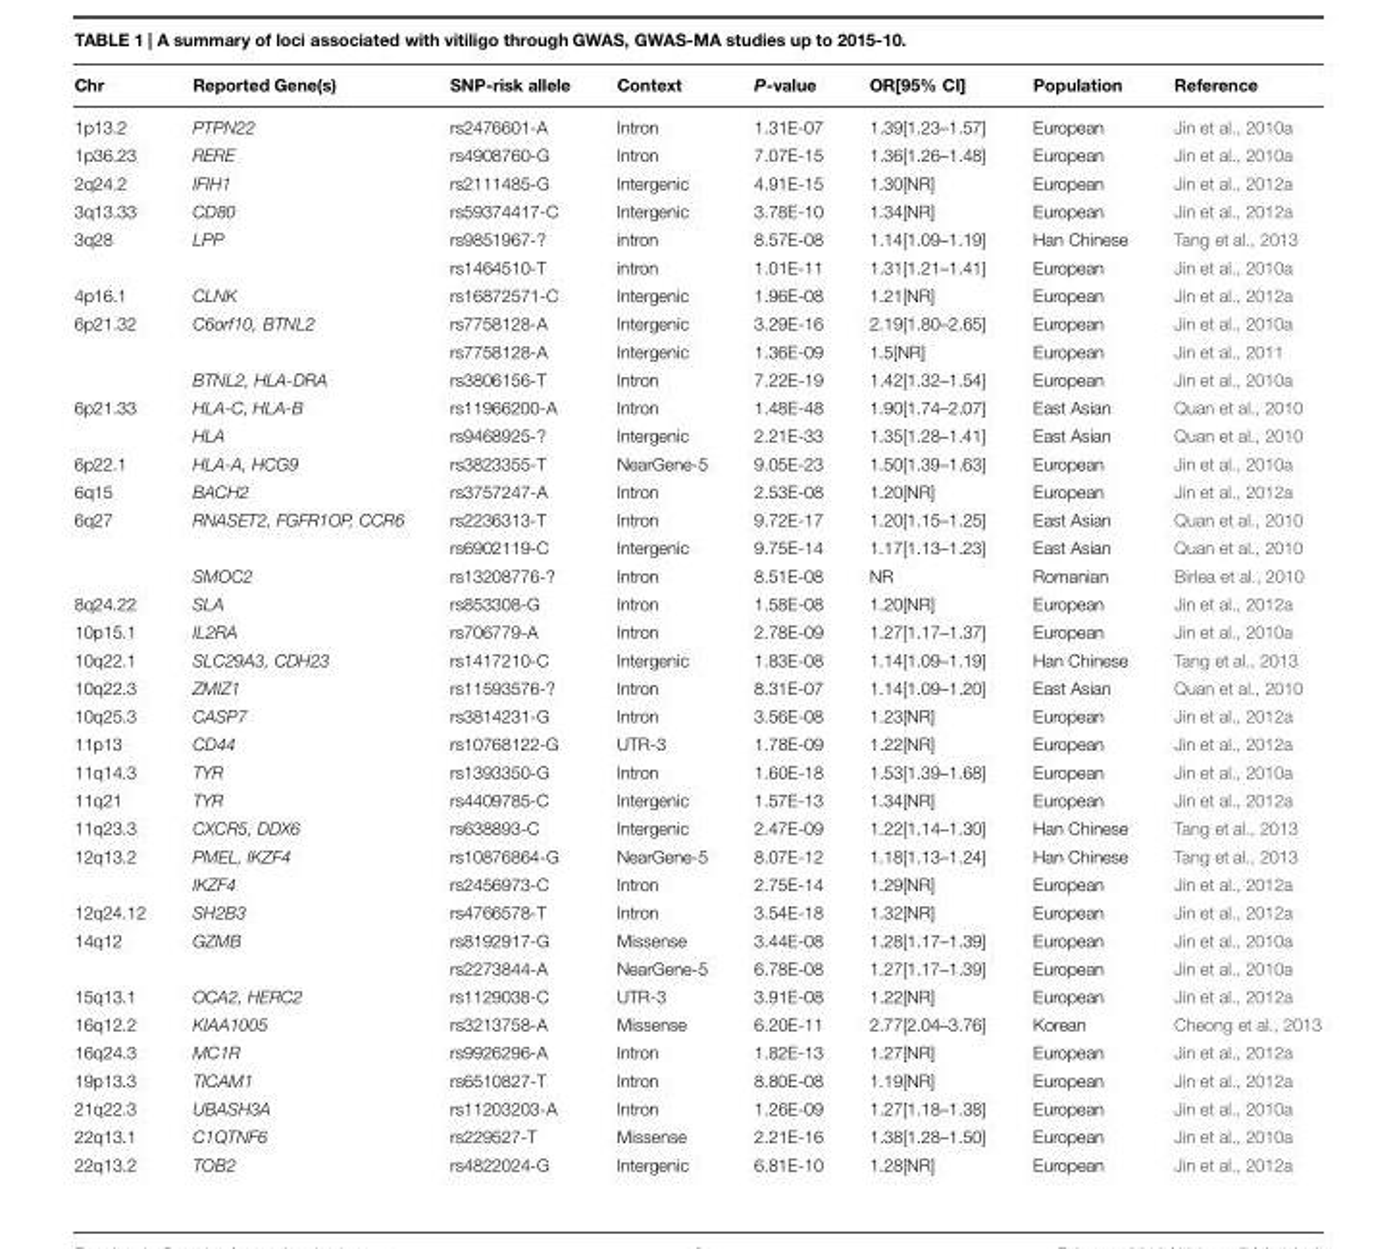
<table><thead><tr><td>Chr</td><td>Reported Gene(s)</td><td>SNP-risk allele</td><td>Context</td><td>P-value</td><td>OR[95% CI]</td><td>Population</td><td>Reference</td></tr></thead><tbody><tr><td>1p13.2</td><td>PTPN22</td><td>rs2476601-A</td><td>Intron</td><td>1.31E-07</td><td>1.39[1.23–1.57]</td><td>European</td><td>Jin et al., 2010a</td></tr><tr><td>1p36.23</td><td>RERE</td><td>rs4908760-G</td><td>Intron</td><td>7.07E-15</td><td>1.36[1.26–1.48]</td><td>European</td><td>Jin et al., 2010a</td></tr><tr><td>2q24.2</td><td>IFIH1</td><td>rs2111485-G</td><td>Intergenic</td><td>4.91E-15</td><td>1.30[NR]</td><td>European</td><td>Jin et al., 2012a</td></tr><tr><td>3q13.33</td><td>CD80</td><td>rs59374417-C</td><td>Intergenic</td><td>3.78E-10</td><td>1.34[NR]</td><td>European</td><td>Jin et al., 2012a</td></tr><tr><td rowspan="2">3q28</td><td>LPP</td><td>rs9851967-?</td><td>intron</td><td>8.57E-08</td><td>1.14[1.09–1.19]</td><td>Han Chinese</td><td>Tang et al., 2013</td></tr><tr><td></td><td>rs1464510-T</td><td>intron</td><td>1.01E-11</td><td>1.31[1.21–1.41]</td><td>European</td><td>Jin et al., 2010a</td></tr><tr><td>4p16.1</td><td>CLNK</td><td>rs16872571-C</td><td>Intergenic</td><td>1.96E-08</td><td>1.21[NR]</td><td>European</td><td>Jin et al., 2012a</td></tr><tr><td rowspan="3">6p21.32</td><td>C6orf10, BTNL2</td><td>rs7758128-A</td><td>Intergenic</td><td>3.29E-16</td><td>2.19[1.80–2.65]</td><td>European</td><td>Jin et al., 2010a</td></tr><tr><td></td><td>rs7758128-A</td><td>Intergenic</td><td>1.36E-09</td><td>1.5[NR]</td><td>European</td><td>Jin et al., 2011</td></tr><tr><td>BTNL2, HLA-DRA</td><td>rs3806156-T</td><td>Intron</td><td>7.22E-19</td><td>1.42[1.32–1.54]</td><td>European</td><td>Jin et al., 2010a</td></tr><tr><td rowspan="2">6p21.33</td><td>HLA-C, HLA-B</td><td>rs11966200-A</td><td>Intron</td><td>1.48E-48</td><td>1.90[1.74–2.07]</td><td>East Asian</td><td>Quan et al., 2010</td></tr><tr><td>HLA</td><td>rs9468925-?</td><td>Intergenic</td><td>2.21E-33</td><td>1.35[1.28–1.41]</td><td>East Asian</td><td>Quan et al., 2010</td></tr><tr><td>6p22.1</td><td>HLA-A, HCG9</td><td>rs3823355-T</td><td>NearGene-5</td><td>9.05E-23</td><td>1.50[1.39–1.63]</td><td>European</td><td>Jin et al., 2010a</td></tr><tr><td>6q15</td><td>BACH2</td><td>rs3757247-A</td><td>Intron</td><td>2.53E-08</td><td>1.20[NR]</td><td>European</td><td>Jin et al., 2012a</td></tr><tr><td rowspan="3">6q27</td><td>RNASET2, FGFR1OP, CCR6</td><td>rs2236313-T</td><td>Intron</td><td>9.72E-17</td><td>1.20[1.15–1.25]</td><td>East Asian</td><td>Quan et al., 2010</td></tr><tr><td></td><td>rs6902119-C</td><td>Intergenic</td><td>9.75E-14</td><td>1.17[1.13–1.23]</td><td>East Asian</td><td>Quan et al., 2010</td></tr><tr><td>SMOC2</td><td>rs13208776-?</td><td>Intron</td><td>8.51E-08</td><td>NR</td><td>Romanian</td><td>Birlea et al., 2010</td></tr><tr><td>8q24.22</td><td>SLA</td><td>rs853308-G</td><td>Intron</td><td>1.58E-08</td><td>1.20[NR]</td><td>European</td><td>Jin et al., 2012a</td></tr><tr><td>10p15.1</td><td>IL2RA</td><td>rs706779-A</td><td>Intron</td><td>2.78E-09</td><td>1.27[1.17–1.37]</td><td>European</td><td>Jin et al., 2010a</td></tr><tr><td>10q22.1</td><td>SLC29A3, CDH23</td><td>rs1417210-C</td><td>Intergenic</td><td>1.83E-08</td><td>1.14[1.09–1.19]</td><td>Han Chinese</td><td>Tang et al., 2013</td></tr><tr><td>10q22.3</td><td>ZMIZ1</td><td>rs11593576-?</td><td>Intron</td><td>8.31E-07</td><td>1.14[1.09–1.20]</td><td>East Asian</td><td>Quan et al., 2010</td></tr><tr><td>10q25.3</td><td>CASP7</td><td>rs3814231-G</td><td>Intron</td><td>3.56E-08</td><td>1.23[NR]</td><td>European</td><td>Jin et al., 2012a</td></tr><tr><td>11p13</td><td>CD44</td><td>rs10768122-G</td><td>UTR-3</td><td>1.78E-09</td><td>1.22[NR]</td><td>European</td><td>Jin et al., 2012a</td></tr><tr><td>11q14.3</td><td>TYR</td><td>rs1393350-G</td><td>Intron</td><td>1.60E-18</td><td>1.53[1.39–1.68]</td><td>European</td><td>Jin et al., 2010a</td></tr><tr><td>11q21</td><td>TYR</td><td>rs4409785-C</td><td>Intergenic</td><td>1.57E-13</td><td>1.34[NR]</td><td>European</td><td>Jin et al., 2012a</td></tr><tr><td>11q23.3</td><td>CXCR5, DDX6</td><td>rs638893-C</td><td>Intergenic</td><td>2.47E-09</td><td>1.22[1.14–1.30]</td><td>Han Chinese</td><td>Tang et al., 2013</td></tr><tr><td rowspan="2">12q13.2</td><td>PMEL, IKZF4</td><td>rs10876864-G</td><td>NearGene-5</td><td>8.07E-12</td><td>1.18[1.13–1.24]</td><td>Han Chinese</td><td>Tang et al., 2013</td></tr><tr><td>IKZF4</td><td>rs2456973-C</td><td>Intron</td><td>2.75E-14</td><td>1.29[NR]</td><td>European</td><td>Jin et al., 2012a</td></tr><tr><td>12q24.12</td><td>SH2B3</td><td>rs4766578-T</td><td>Intron</td><td>3.54E-18</td><td>1.32[NR]</td><td>European</td><td>Jin et al., 2012a</td></tr><tr><td rowspan="2">14q12</td><td>GZMB</td><td>rs8192917-G</td><td>Missense</td><td>3.44E-08</td><td>1.28[1.17–1.39]</td><td>European</td><td>Jin et al., 2010a</td></tr><tr><td></td><td>rs2273844-A</td><td>NearGene-5</td><td>6.78E-08</td><td>1.27[1.17–1.39]</td><td>European</td><td>Jin et al., 2010a</td></tr><tr><td>15q13.1</td><td>OCA2, HERC2</td><td>rs1129038-C</td><td>UTR-3</td><td>3.91E-08</td><td>1.22[NR]</td><td>European</td><td>Jin et al., 2012a</td></tr><tr><td>16q12.2</td><td>KIAA1005</td><td>rs3213758-A</td><td>Missense</td><td>6.20E-11</td><td>2.77[2.04–3.76]</td><td>Korean</td><td>Cheong et al., 2013</td></tr><tr><td>16q24.3</td><td>MC1R</td><td>rs9926296-A</td><td>Intron</td><td>1.82E-13</td><td>1.27[NR]</td><td>European</td><td>Jin et al., 2012a</td></tr><tr><td>19p13.3</td><td>TICAM1</td><td>rs6510827-T</td><td>Intron</td><td>8.80E-08</td><td>1.19[NR]</td><td>European</td><td>Jin et al., 2012a</td></tr><tr><td>21q22.3</td><td>UBASH3A</td><td>rs11203203-A</td><td>Intron</td><td>1.26E-09</td><td>1.27[1.18–1.38]</td><td>European</td><td>Jin et al., 2010a</td></tr><tr><td>22q13.1</td><td>C1QTNF6</td><td>rs229527-T</td><td>Missense</td><td>2.21E-16</td><td>1.38[1.28–1.50]</td><td>European</td><td>Jin et al., 2010a</td></tr><tr><td>22q13.2</td><td>TOB2</td><td>rs4822024-G</td><td>Intergenic</td><td>6.81E-10</td><td>1.28[NR]</td><td>European</td><td>Jin et al., 2012a</td></tr></tbody></table>